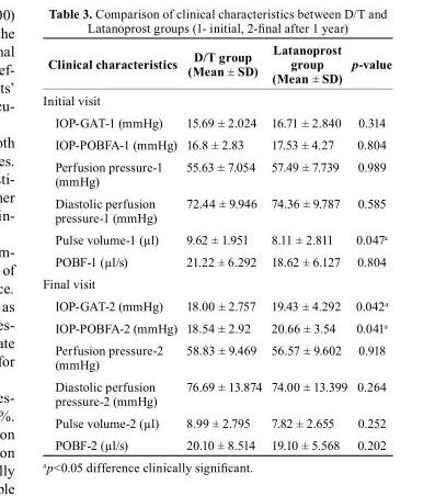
<table><thead><tr><td>clinical characteristics</td><td>D/T group (Mean ± SD)</td><td>Latanoprost group (Mean ± SD)</td><td>p-value</td></tr></thead><tbody><tr><td colspan="4">Initial visit</td></tr><tr><td>IOP-GAT-1 (mmHg)</td><td>15.69 ± 2.024</td><td>16.71 ± 2.840</td><td>0.314</td></tr><tr><td>IOP-POBFA-1 (mmHg)</td><td>16.8 ± 2.83</td><td>17.53 ± 4.27</td><td>0.804</td></tr><tr><td>Perfusion pressure-1 (mmHg)</td><td>55.63 ± 7.054</td><td>57.49 ± 7.739</td><td>0.989</td></tr><tr><td>Diastolic perfusion pressure-1 (mmHg)</td><td>72.44 ± 9.946</td><td>74.36 ± 9.787</td><td>0.585</td></tr><tr><td>Pulse volume-1 (µl)</td><td>9.62 ± 1.951</td><td>8.11 ± 2.811</td><td>0.047<sup>a</sup></td></tr><tr><td>POBF-1 (µl/s)</td><td>21.22 ± 6.292</td><td>18.62 ± 6.127</td><td>0.804</td></tr><tr><td colspan="4">Final visit</td></tr><tr><td>IOP-GAT-2 (mmHg)</td><td>18.00 ± 2.757</td><td>19.43 ± 4.292</td><td>0.042<sup>a</sup></td></tr><tr><td>IOP-POBFA-2 (mmHg)</td><td>18.54 ± 2.92</td><td>20.66 ± 3.54</td><td>0.041<sup>a</sup></td></tr><tr><td>Perfusion pressure-2 (mmHg)</td><td>58.83 ± 9.469</td><td>56.57 ± 9.602</td><td>0.918</td></tr><tr><td>Diastolic perfusion pressure-2 (mmHg)</td><td>76.69 ± 13.874</td><td>74.00 ± 13.399</td><td>0.264</td></tr><tr><td>Pulse volume-2 (µl)</td><td>8.99 ± 2.795</td><td>7.82 ± 2.655</td><td>0.252</td></tr><tr><td>POBF-2 (µl/s)</td><td>20.10 ± 8.514</td><td>19.10 ± 5.568</td><td>0.202</td></tr></tbody></table>